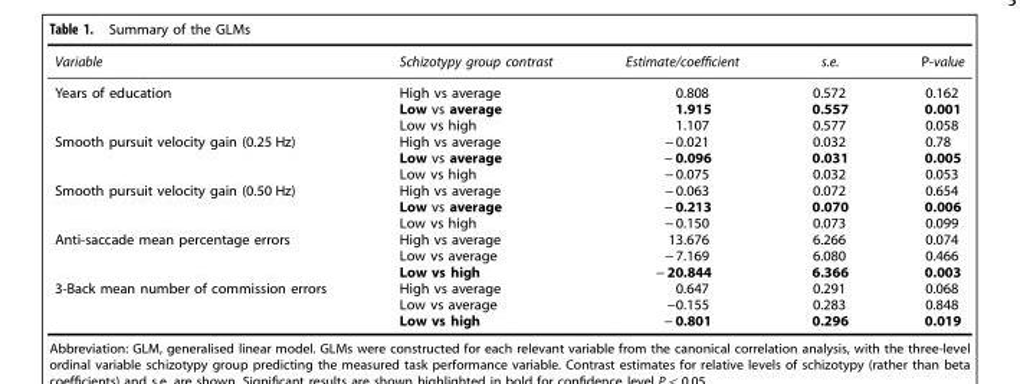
<table><thead><tr><td>Variable</td><td>Schizotypy group contrast</td><td>Estimate/coefficient</td><td>s.e.</td><td>P-value</td></tr></thead><tbody><tr><td rowspan="3">Years of education</td><td>High vs average</td><td>0.808</td><td>0.572</td><td>0.162</td></tr><tr><td>Low vs average</td><td>1.915</td><td>0.557</td><td>0.001</td></tr><tr><td>Low vs high</td><td>1.107</td><td>0.577</td><td>0.058</td></tr><tr><td rowspan="3">Smooth pursuit velocity gain (0.25 Hz)</td><td>High vs average</td><td>− 0.021</td><td>0.032</td><td>0.78</td></tr><tr><td>Low vs average</td><td>− 0.096</td><td>0.031</td><td>0.005</td></tr><tr><td>Low vs high</td><td>− 0.075</td><td>0.032</td><td>0.053</td></tr><tr><td rowspan="3">Smooth pursuit velocity gain (0.50 Hz)</td><td>High vs average</td><td>− 0.063</td><td>0.072</td><td>0.654</td></tr><tr><td>Low vs average</td><td>− 0.213</td><td>0.070</td><td>0.006</td></tr><tr><td>Low vs high</td><td>− 0.150</td><td>0.073</td><td>0.099</td></tr><tr><td rowspan="3">Anti-saccade mean percentage errors</td><td>High vs average</td><td>13.676</td><td>6.266</td><td>0.074</td></tr><tr><td>Low vs average</td><td>− 7.169</td><td>6.080</td><td>0.466</td></tr><tr><td>Low vs high</td><td>− 20.844</td><td>6.366</td><td>0.003</td></tr><tr><td rowspan="3">3-Back mean number of commission errors</td><td>High vs average</td><td>0.647</td><td>0.291</td><td>0.068</td></tr><tr><td>Low vs average</td><td>−0.155</td><td>0.283</td><td>0.848</td></tr><tr><td>Low vs high</td><td>− 0.801</td><td>0.296</td><td>0.019</td></tr></tbody></table>